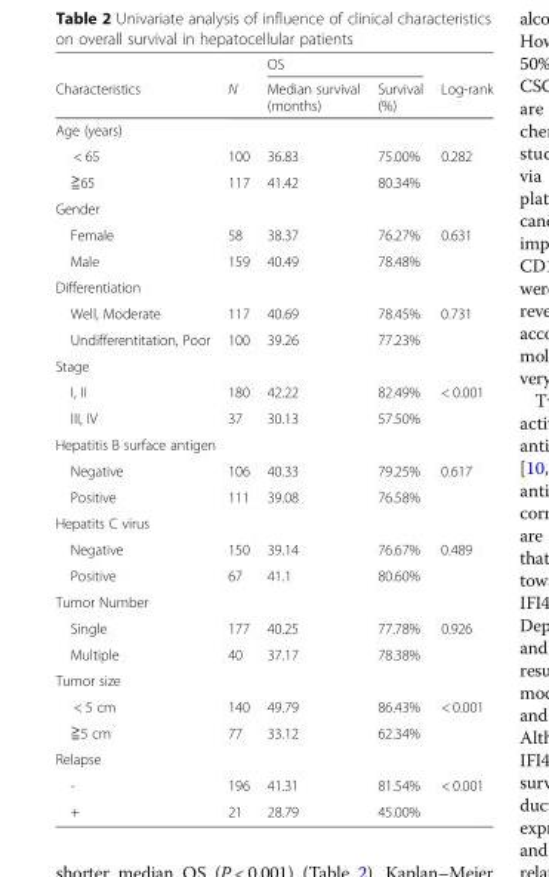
<table><thead><tr><td rowspan="2">Characteristics</td><td rowspan="2">N</td><td colspan="2">OS</td><td rowspan="2">Log-rank</td></tr><tr><td>Median survival (months)</td><td>Survival (%)</td></tr></thead><tbody><tr><td colspan="5">Age (years)</td></tr><tr><td>&lt; 65</td><td>100</td><td>36.83</td><td>75.00%</td><td>0.282</td></tr><tr><td>≧65</td><td>117</td><td>41.42</td><td>80.34%</td><td></td></tr><tr><td colspan="5">Gender</td></tr><tr><td>Female</td><td>58</td><td>38.37</td><td>76.27%</td><td>0.631</td></tr><tr><td>Male</td><td>159</td><td>40.49</td><td>78.48%</td><td></td></tr><tr><td colspan="5">Differentiation</td></tr><tr><td>Well, Moderate</td><td>117</td><td>40.69</td><td>78.45%</td><td>0.731</td></tr><tr><td>Undifferentitation, Poor</td><td>100</td><td>39.26</td><td>77.23%</td><td></td></tr><tr><td colspan="5">Stage</td></tr><tr><td>I, II</td><td>180</td><td>42.22</td><td>82.49%</td><td>&lt; 0.001</td></tr><tr><td>III, IV</td><td>37</td><td>30.13</td><td>57.50%</td><td></td></tr><tr><td colspan="5">Hepatitis B surface antigen</td></tr><tr><td>Negative</td><td>106</td><td>40.33</td><td>79.25%</td><td>0.617</td></tr><tr><td>Positive</td><td>111</td><td>39.08</td><td>76.58%</td><td></td></tr><tr><td colspan="5">Hepatits C virus</td></tr><tr><td>Negative</td><td>150</td><td>39.14</td><td>76.67%</td><td>0.489</td></tr><tr><td>Positive</td><td>67</td><td>41.1</td><td>80.60%</td><td></td></tr><tr><td colspan="5">Tumor Number</td></tr><tr><td>Single</td><td>177</td><td>40.25</td><td>77.78%</td><td>0.926</td></tr><tr><td>Multiple</td><td>40</td><td>37.17</td><td>78.38%</td><td></td></tr><tr><td colspan="5">Tumor size</td></tr><tr><td>&lt; 5 cm</td><td>140</td><td>49.79</td><td>86.43%</td><td>&lt; 0.001</td></tr><tr><td>≧5 cm</td><td>77</td><td>33.12</td><td>62.34%</td><td></td></tr><tr><td colspan="5">Relapse</td></tr><tr><td>-</td><td>196</td><td>41.31</td><td>81.54%</td><td>&lt; 0.001</td></tr><tr><td>+</td><td>21</td><td>28.79</td><td>45.00%</td><td></td></tr></tbody></table>